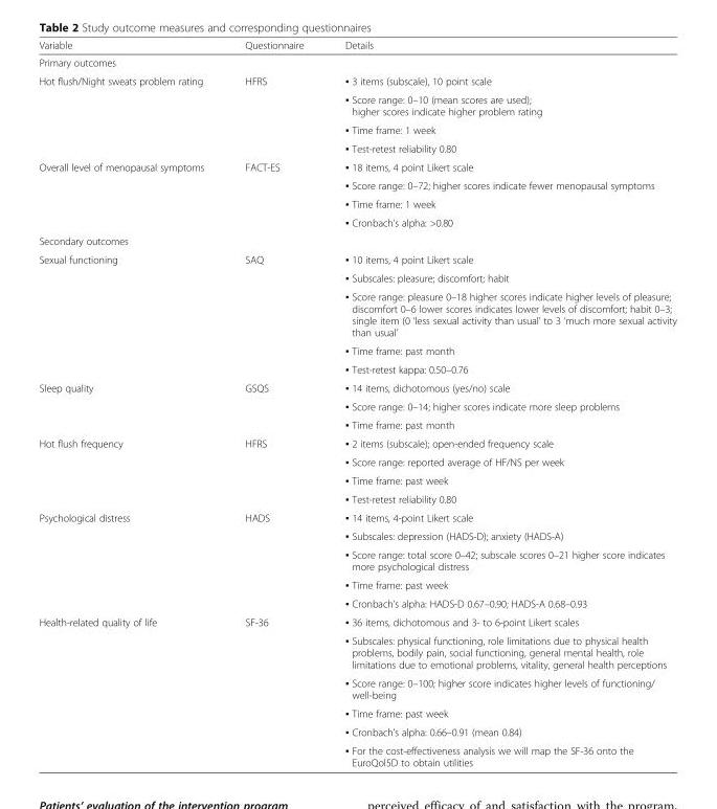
<table><thead><tr><td>Variable</td><td>Questionnaire</td><td>Details</td></tr></thead><tbody><tr><td colspan="3">Primary outcomes</td></tr><tr><td rowspan="4">Hot flush/Night sweats problem rating</td><td rowspan="4">HFRS</td><td>▪ 3 items (subscale), 10 point scale</td></tr><tr><td>▪ Score range: 0–10 (mean scores are used); higher scores indicate higher problem rating</td></tr><tr><td>▪ Time frame: 1 week</td></tr><tr><td>▪ Test-retest reliability 0.80</td></tr><tr><td rowspan="4">Overall level of menopausal symptoms</td><td rowspan="4">FACT-ES</td><td>▪ 18 items, 4 point Likert scale</td></tr><tr><td>▪ Score range: 0–72; higher scores indicate fewer menopausal symptoms</td></tr><tr><td>▪ Time frame: 1 week</td></tr><tr><td>▪ Cronbach’s alpha: &gt;0.80</td></tr><tr><td colspan="3">Secondary outcomes</td></tr><tr><td rowspan="5">Sexual functioning</td><td rowspan="5">SAQ</td><td>▪ 10 items, 4 point Likert scale</td></tr><tr><td>▪ Subscales: pleasure; discomfort; habit</td></tr><tr><td>▪ Score range: pleasure 0–18 higher scores indicate higher levels of pleasure; discomfort 0–6 lower scores indicates lower levels of discomfort; habit 0–3; single item (0 ‘less sexual activity than usual’ to 3 ‘much more sexual activity than usual’</td></tr><tr><td>▪ Time frame: past month</td></tr><tr><td>▪ Test-retest kappa: 0.50–0.76</td></tr><tr><td rowspan="3">Sleep quality</td><td rowspan="3">GSQS</td><td>▪ 14 items, dichotomous (yes/no) scale</td></tr><tr><td>▪ Score range: 0–14; higher scores indicate more sleep problems</td></tr><tr><td>▪ Time frame: past month</td></tr><tr><td rowspan="4">Hot flush frequency</td><td rowspan="4">HFRS</td><td>▪ 2 items (subscale); open-ended frequency scale</td></tr><tr><td>▪ Score range: reported average of HF/NS per week</td></tr><tr><td>▪ Time frame: past week</td></tr><tr><td>▪ Test-retest reliability 0.80</td></tr><tr><td rowspan="5">Psychological distress</td><td rowspan="5">HADS</td><td>▪ 14 items, 4-point Likert scale</td></tr><tr><td>▪ Subscales: depression (HADS-D); anxiety (HADS-A)</td></tr><tr><td>▪ Score range: total score 0–42; subscale scores 0–21 higher score indicates more psychological distress</td></tr><tr><td>▪ Time frame: past week</td></tr><tr><td>▪ Cronbach’s alpha: HADS-D 0.67–0.90; HADS-A 0.68–0.93</td></tr><tr><td rowspan="6">Health-related quality of life</td><td rowspan="6">SF-36</td><td>▪ 36 items, dichotomous and 3- to 6-point Likert scales</td></tr><tr><td>▪ Subscales: physical functioning, role limitations due to physical health problems, bodily pain, social functioning, general mental health, role limitations due to emotional problems, vitality, general health perceptions</td></tr><tr><td>▪ Score range: 0–100; higher score indicates higher levels of functioning/ well-being</td></tr><tr><td>▪ Time frame: past week</td></tr><tr><td>▪ Cronbach’s alpha: 0.66–0.91 (mean 0.84)</td></tr><tr><td>▪ For the cost-effectiveness analysis we will map the SF-36 onto the EuroQol5D to obtain utilities</td></tr></tbody></table>